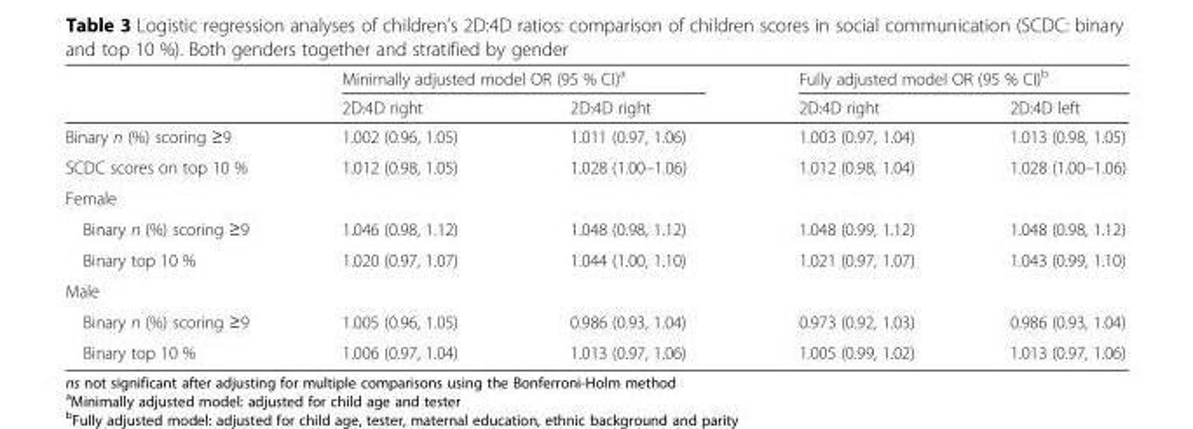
<table><thead><tr><td rowspan="2"></td><td colspan="2">Minimally adjusted model OR (95 % CI)<sup>a</sup></td><td colspan="2">Fully adjusted model OR (95 % CI)<sup>b</sup></td></tr><tr><td>2D:4D right</td><td>2D:4D right</td><td>2D:4D right</td><td>2D:4D left</td></tr></thead><tbody><tr><td>Binary n (%) scoring ≥9</td><td>1.002 (0.96, 1.05)</td><td>1.011 (0.97, 1.06)</td><td>1.003 (0.97, 1.04)</td><td>1.013 (0.98, 1.05)</td></tr><tr><td>SCDC scores on top 10 %</td><td>1.012 (0.98, 1.05)</td><td>1.028 (1.00–1.06)</td><td>1.012 (0.98, 1.04)</td><td>1.028 (1.00–1.06)</td></tr><tr><td colspan="5">Female</td></tr><tr><td>Binary n (%) scoring ≥9</td><td>1.046 (0.98, 1.12)</td><td>1.048 (0.98, 1.12)</td><td>1.048 (0.99, 1.12)</td><td>1.048 (0.98, 1.12)</td></tr><tr><td>Binary top 10 %</td><td>1.020 (0.97, 1.07)</td><td>1.044 (1.00, 1.10)</td><td>1.021 (0.97, 1.07)</td><td>1.043 (0.99, 1.10)</td></tr><tr><td colspan="5">Male</td></tr><tr><td>Binary n (%) scoring ≥9</td><td>1.005 (0.96, 1.05)</td><td>0.986 (0.93, 1.04)</td><td>0.973 (0.92, 1.03)</td><td>0.986 (0.93, 1.04)</td></tr><tr><td>Binary top 10 %</td><td>1.006 (0.97, 1.04)</td><td>1.013 (0.97, 1.06)</td><td>1.005 (0.99, 1.02)</td><td>1.013 (0.97, 1.06)</td></tr></tbody></table>